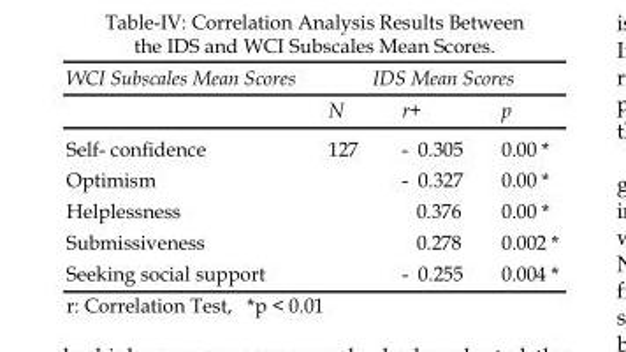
<table><thead><tr><td rowspan="2">WCI Subscales Mean Scores</td><td colspan="3">IDS Mean Scores</td></tr><tr><td>N</td><td>r<sup>+</sup></td><td>p</td></tr></thead><tbody><tr><td>Self- confidence</td><td rowspan="5">127</td><td>- 0.305</td><td>0.00 *</td></tr><tr><td>Optimism</td><td>- 0.327</td><td>0.00 *</td></tr><tr><td>Helplessness</td><td>0.376</td><td>0.00 *</td></tr><tr><td>Submissiveness</td><td>0.278</td><td>0.002 *</td></tr><tr><td>Seeking social support</td><td>- 0.255</td><td>0.004 *</td></tr></tbody></table>